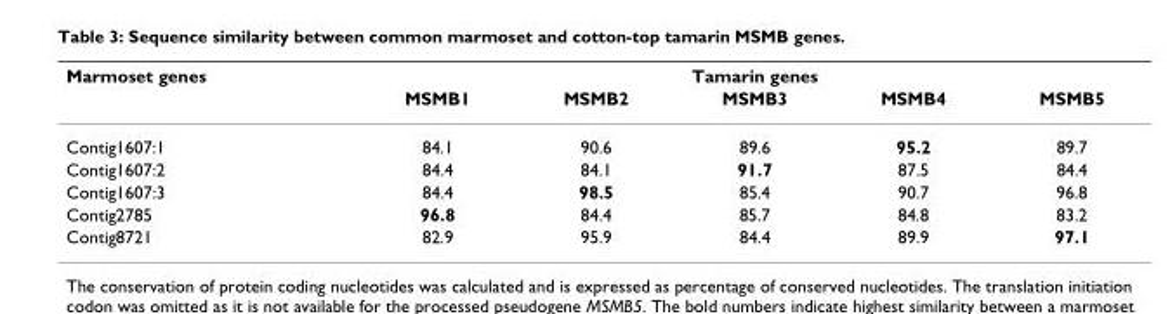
<table><thead><tr><td rowspan="2">Marmoset genes</td><td colspan="5">Tamarin genes</td></tr><tr><td>MSMB1</td><td>MSMB2</td><td>MSMB3</td><td>MSMB4</td><td>MSMB5</td></tr></thead><tbody><tr><td>Contig1607:1</td><td>84.1</td><td>90.6</td><td>89.6</td><td>95.2</td><td>89.7</td></tr><tr><td>Contig1607:2</td><td>84.4</td><td>84.1</td><td>91.7</td><td>87.5</td><td>84.4</td></tr><tr><td>Contig1607:3</td><td>84.4</td><td>98.5</td><td>85.4</td><td>90.7</td><td>96.8</td></tr><tr><td>Contig2785</td><td>96.8</td><td>84.4</td><td>85.7</td><td>84.8</td><td>83.2</td></tr><tr><td>Contig8721</td><td>82.9</td><td>95.9</td><td>84.4</td><td>89.9</td><td>97.1</td></tr></tbody></table>